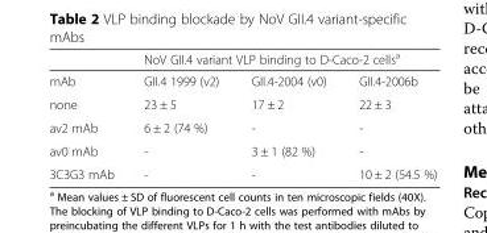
<table><thead><tr><td rowspan="2">mAb</td><td colspan="3">NoV GII.4 variant VLP binding to D-Caco-2 cells<sup>a</sup></td></tr><tr><td>GII.4 1999 (v2)</td><td>GII.4-2004 (v0)</td><td>GII.4-2006b</td></tr></thead><tbody><tr><td>none</td><td>23 ± 5</td><td>17 ± 2</td><td>22 ± 3</td></tr><tr><td>av2 mAb</td><td>6 ± 2 (74 %)</td><td>-</td><td>-</td></tr><tr><td>av0 mAb</td><td>-</td><td>3 ± 1 (82 %)</td><td>-</td></tr><tr><td>3C3G3 mAb</td><td>-</td><td>-</td><td>10 ± 2 (54.5 %)</td></tr></tbody></table>